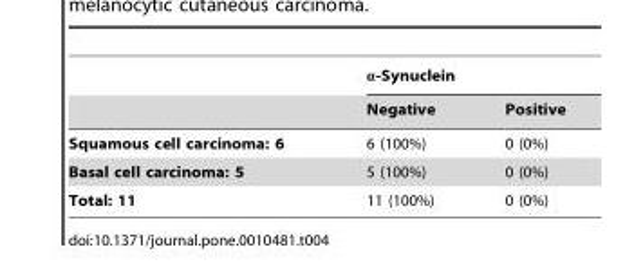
<table><thead><tr><td rowspan="2"></td><td colspan="2">α-Synuclein</td></tr><tr><td>Negative</td><td>Positive</td></tr></thead><tbody><tr><td>Squamous cell carcinoma: 6</td><td>6 (100%)</td><td>0 (0%)</td></tr><tr><td>Basal cell carcinoma: 5</td><td>5 (100%)</td><td>0 (0%)</td></tr><tr><td>Total: 11</td><td>11 (100%)</td><td>0 (0%)</td></tr></tbody></table>